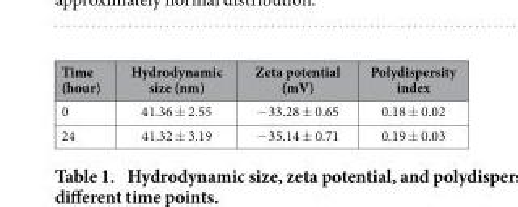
<table><thead><tr><td>Time (hour)</td><td>Hydrodynamic size (nm)</td><td>Zeta potential (mV)</td><td>Polydispersity index</td></tr></thead><tbody><tr><td>0</td><td>41.36 ± 2.55</td><td>− 33.28 ± 0.65</td><td>0.18 ± 0.02</td></tr><tr><td>24</td><td>41.32 ± 3.19</td><td>− 35.14 ± 0.71</td><td>0.19 ± 0.03</td></tr></tbody></table>